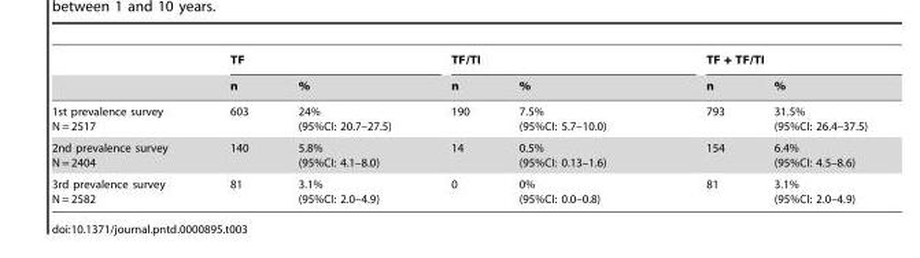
<table><thead><tr><td rowspan="2"></td><td colspan="2">TF</td><td colspan="2">TF/TI</td><td colspan="2">TF + TF/TI</td></tr><tr><td>n</td><td>%</td><td>n</td><td>%</td><td>n</td><td>%</td></tr></thead><tbody><tr><td>1st prevalence survey N = 2517</td><td>603</td><td>24% (95%CI: 20.7–27.5)</td><td>190</td><td>7.5% (95%CI: 5.7–10.0)</td><td>793</td><td>31.5% (95%CI: 26.4–37.5)</td></tr><tr><td>2nd prevalence survey N = 2404</td><td>140</td><td>5.8% (95%CI: 4.1–8.0)</td><td>14</td><td>0.5% (95%CI: 0.13–1.6)</td><td>154</td><td>6.4% (95%CI: 4.5–8.6)</td></tr><tr><td>3rd prevalence survey N = 2582</td><td>81</td><td>3.1% (95%CI: 2.0–4.9)</td><td>0</td><td>0% (95%CI: 0.0–0.8)</td><td>81</td><td>3.1% (95%CI: 2.0–4.9)</td></tr></tbody></table>